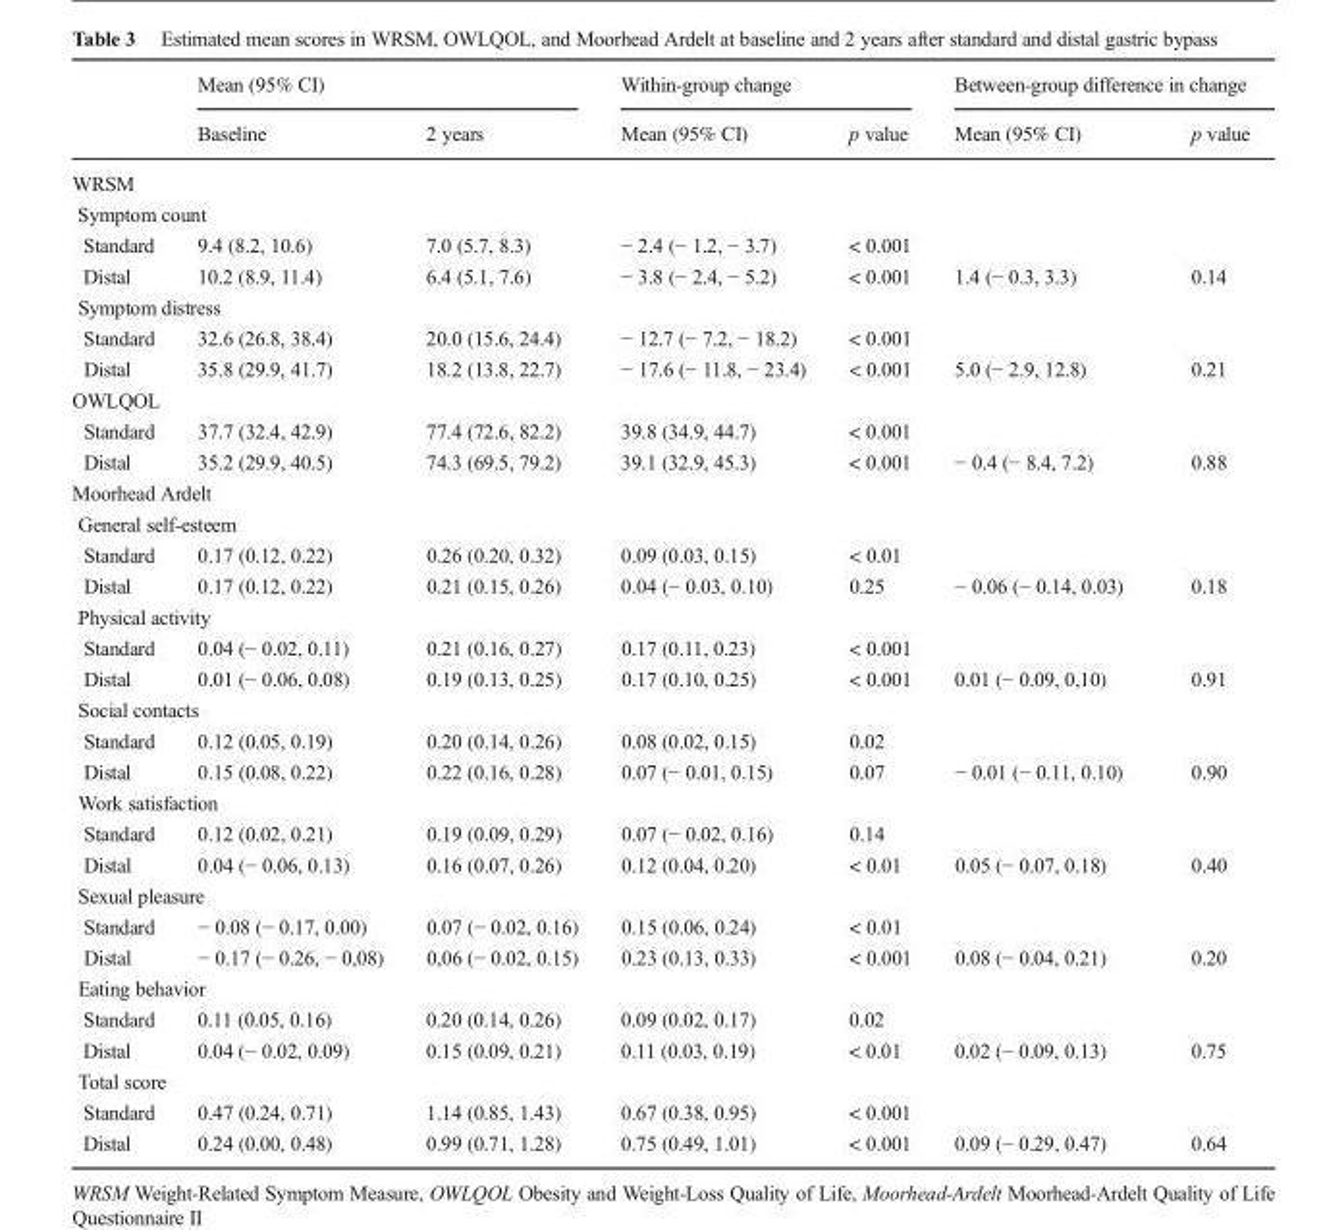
<table><thead><tr><td rowspan="2"></td><td colspan="2">Mean (95% CI)</td><td colspan="2">Within-group change</td><td colspan="2">Between-group difference in change</td></tr><tr><td>Baseline</td><td>2 years</td><td>Mean (95% CI)</td><td>p value</td><td>Mean (95% CI)</td><td>p value</td></tr></thead><tbody><tr><td colspan="7">WRSM</td></tr><tr><td colspan="7">Symptom count</td></tr><tr><td>Standard</td><td>9.4 (8.2, 10.6)</td><td>7.0 (5.7, 8.3)</td><td>− 2.4 (− 1.2, − 3.7)</td><td>&lt; 0.001</td><td></td><td></td></tr><tr><td>Distal</td><td>10.2 (8.9, 11.4)</td><td>6.4 (5.1, 7.6)</td><td>− 3.8 (− 2.4, − 5.2)</td><td>&lt; 0.001</td><td>1.4 (− 0.3, 3.3)</td><td>0.14</td></tr><tr><td colspan="7">Symptom distress</td></tr><tr><td>Standard</td><td>32.6 (26.8, 38.4)</td><td>20.0 (15.6, 24.4)</td><td>− 12.7 (− 7.2, − 18.2)</td><td>&lt; 0.001</td><td></td><td></td></tr><tr><td>Distal</td><td>35.8 (29.9, 41.7)</td><td>18.2 (13.8, 22.7)</td><td>− 17.6 (− 11.8, − 23.4)</td><td>&lt; 0.001</td><td>5.0 (− 2.9, 12.8)</td><td>0.21</td></tr><tr><td colspan="7">OWLQOL</td></tr><tr><td>Standard</td><td>37.7 (32.4, 42.9)</td><td>77.4 (72.6, 82.2)</td><td>39.8 (34.9, 44.7)</td><td>&lt; 0.001</td><td></td><td></td></tr><tr><td>Distal</td><td>35.2 (29.9, 40.5)</td><td>74.3 (69.5, 79.2)</td><td>39.1 (32.9, 45.3)</td><td>&lt; 0.001</td><td>− 0.4 (− 8.4, 7.2)</td><td>0.88</td></tr><tr><td colspan="7">Moorhead Ardelt</td></tr><tr><td colspan="7">General self-esteem</td></tr><tr><td>Standard</td><td>0.17 (0.12, 0.22)</td><td>0.26 (0.20, 0.32)</td><td>0.09 (0.03, 0.15)</td><td>&lt; 0.01</td><td></td><td></td></tr><tr><td>Distal</td><td>0.17 (0.12, 0.22)</td><td>0.21 (0.15, 0.26)</td><td>0.04 (− 0.03, 0.10)</td><td>0.25</td><td>− 0.06 (− 0.14, 0.03)</td><td>0.18</td></tr><tr><td colspan="7">Physical activity</td></tr><tr><td>Standard</td><td>0.04 (− 0.02, 0.11)</td><td>0.21 (0.16, 0.27)</td><td>0.17 (0.11, 0.23)</td><td>&lt; 0.001</td><td></td><td></td></tr><tr><td>Distal</td><td>0.01 (− 0.06, 0.08)</td><td>0.19 (0.13, 0.25)</td><td>0.17 (0.10, 0.25)</td><td>&lt; 0.001</td><td>0.01 (− 0.09, 0,10)</td><td>0.91</td></tr><tr><td colspan="7">Social contacts</td></tr><tr><td>Standard</td><td>0.12 (0.05, 0.19)</td><td>0.20 (0.14, 0.26)</td><td>0.08 (0.02, 0.15)</td><td>0.02</td><td></td><td></td></tr><tr><td>Distal</td><td>0.15 (0.08, 0.22)</td><td>0.22 (0.16, 0.28)</td><td>0.07 (− 0.01, 0.15)</td><td>0.07</td><td>− 0.01 (− 0.11, 0.10)</td><td>0.90</td></tr><tr><td colspan="7">Work satisfaction</td></tr><tr><td>Standard</td><td>0.12 (0.02, 0.21)</td><td>0.19 (0.09, 0.29)</td><td>0.07 (− 0.02, 0.16)</td><td>0.14</td><td></td><td></td></tr><tr><td>Distal</td><td>0.04 (− 0.06, 0.13)</td><td>0.16 (0.07, 0.26)</td><td>0.12 (0.04, 0.20)</td><td>&lt; 0.01</td><td>0.05 (− 0.07, 0.18)</td><td>0.40</td></tr><tr><td colspan="7">Sexual pleasure</td></tr><tr><td>Standard</td><td>− 0.08 (− 0.17, 0.00)</td><td>0.07 (− 0.02, 0.16)</td><td>0.15 (0.06, 0.24)</td><td>&lt; 0.01</td><td></td><td></td></tr><tr><td>Distal</td><td>− 0.17 (− 0.26, − 0,08)</td><td>0,06 (− 0.02, 0.15)</td><td>0.23 (0.13, 0.33)</td><td>&lt; 0.001</td><td>0.08 (− 0.04, 0.21)</td><td>0.20</td></tr><tr><td colspan="7">Eating behavior</td></tr><tr><td>Standard</td><td>0.11 (0.05, 0.16)</td><td>0.20 (0.14, 0.26)</td><td>0.09 (0.02, 0.17)</td><td>0.02</td><td></td><td></td></tr><tr><td>Distal</td><td>0.04 (− 0.02, 0.09)</td><td>0.15 (0.09, 0.21)</td><td>0.11 (0.03, 0.19)</td><td>&lt; 0.01</td><td>0.02 (− 0.09, 0.13)</td><td>0.75</td></tr><tr><td colspan="7">Total score</td></tr><tr><td>Standard</td><td>0.47 (0.24, 0.71)</td><td>1.14 (0.85, 1.43)</td><td>0.67 (0.38, 0.95)</td><td>&lt; 0.001</td><td></td><td></td></tr><tr><td>Distal</td><td>0.24 (0.00, 0.48)</td><td>0.99 (0.71, 1.28)</td><td>0.75 (0.49, 1.01)</td><td>&lt; 0.001</td><td>0.09 (− 0.29, 0.47)</td><td>0.64</td></tr></tbody></table>